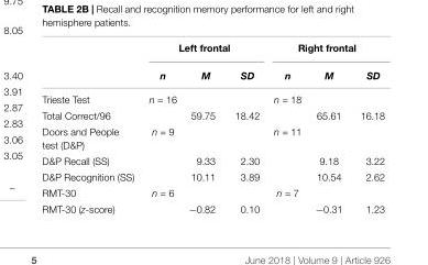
<table><thead><tr><td rowspan="2"></td><td colspan="3">Left frontal</td><td colspan="3">Right frontal</td></tr><tr><td>n</td><td>M</td><td>SD</td><td>n</td><td>M</td><td>SD</td></tr></thead><tbody><tr><td>Trieste Test</td><td>n = 16</td><td></td><td></td><td>n = 18</td><td></td><td></td></tr><tr><td>Total Correct/96</td><td></td><td>59.75</td><td>18.42</td><td></td><td>65.61</td><td>16.18</td></tr><tr><td>Doors and People test (D&amp;P)</td><td>n = 9</td><td></td><td></td><td>n = 11</td><td></td><td></td></tr><tr><td>D&amp;P Recall (SS)</td><td></td><td>9.33</td><td>2.30</td><td></td><td>9.18</td><td>3.22</td></tr><tr><td>D&amp;P Recognition (SS)</td><td></td><td>10.11</td><td>3.89</td><td></td><td>10.54</td><td>2.62</td></tr><tr><td>RMT-30</td><td>n = 6</td><td></td><td></td><td>n = 7</td><td></td><td></td></tr><tr><td>RMT-30 (z-score)</td><td></td><td>−0.82</td><td>0.10</td><td></td><td>−0.31</td><td>1.23</td></tr></tbody></table>